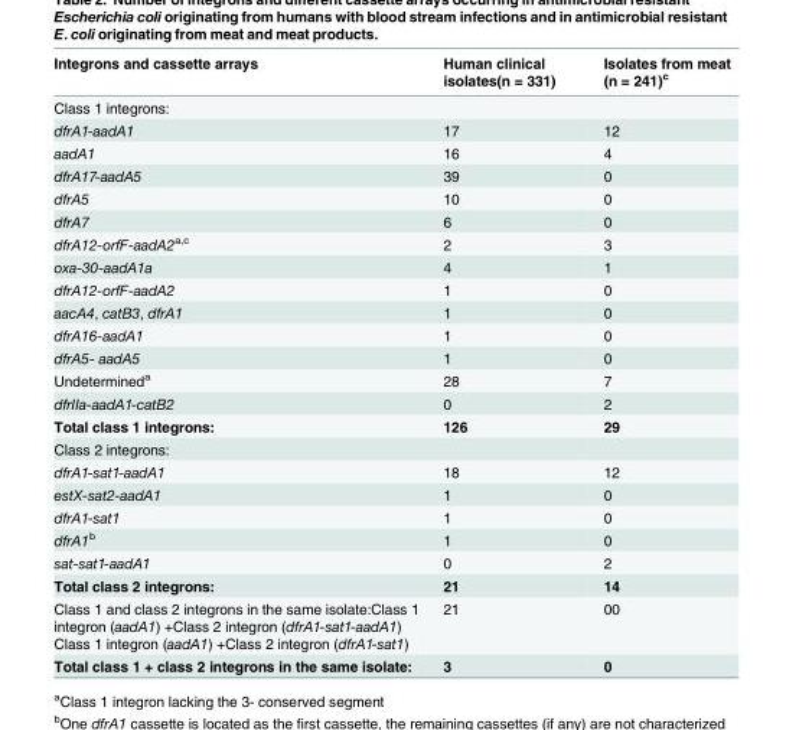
<table><thead><tr><td>Integrons and cassette arrays</td><td>Human clinical isolates(n = 331)</td><td>Isolates from meat (n = 241)<sup>c</sup></td></tr></thead><tbody><tr><td colspan="3">Class 1 integrons:</td></tr><tr><td>dfrA1-aadA1</td><td>17</td><td>12</td></tr><tr><td>aadA1</td><td>16</td><td>4</td></tr><tr><td>dfrA17-aadA5</td><td>39</td><td>0</td></tr><tr><td>dfrA5</td><td>10</td><td>0</td></tr><tr><td>dfrA7</td><td>6</td><td>0</td></tr><tr><td>dfrA12-orfF-aadA2<sup>a,c</sup></td><td>2</td><td>3</td></tr><tr><td>oxa-30-aadA1a</td><td>4</td><td>1</td></tr><tr><td>dfrA12-orfF-aadA2</td><td>1</td><td>0</td></tr><tr><td>aacA4, catB3, dfrA1</td><td>1</td><td>0</td></tr><tr><td>dfrA16-aadA1</td><td>1</td><td>0</td></tr><tr><td>dfrA5- aadA5</td><td>1</td><td>0</td></tr><tr><td>Undetermined<sup>a</sup></td><td>28</td><td>7</td></tr><tr><td>dfrIIa-aadA1-catB2</td><td>0</td><td>2</td></tr><tr><td>Total class 1 integrons:</td><td>126</td><td>29</td></tr><tr><td colspan="3">Class 2 integrons:</td></tr><tr><td>dfrA1-sat1-aadA1</td><td>18</td><td>12</td></tr><tr><td>estX-sat2-aadA1</td><td>1</td><td>0</td></tr><tr><td>dfrA1-sat1</td><td>1</td><td>0</td></tr><tr><td>dfrA1<sup>b</sup></td><td>1</td><td>0</td></tr><tr><td>sat-sat1-aadA1</td><td>0</td><td>2</td></tr><tr><td>Total class 2 integrons:</td><td>21</td><td>14</td></tr><tr><td>Class 1 and class 2 integrons in the same isolate:Class 1 integron (aadA1) +Class 2 integron (dfrA1-sat1-aadA1) Class 1 integron (aadA1) +Class 2 integron (dfrA1-sat1)</td><td>21</td><td>00</td></tr><tr><td>Total class 1 + class 2 integrons in the same isolate:</td><td>3</td><td>0</td></tr></tbody></table>